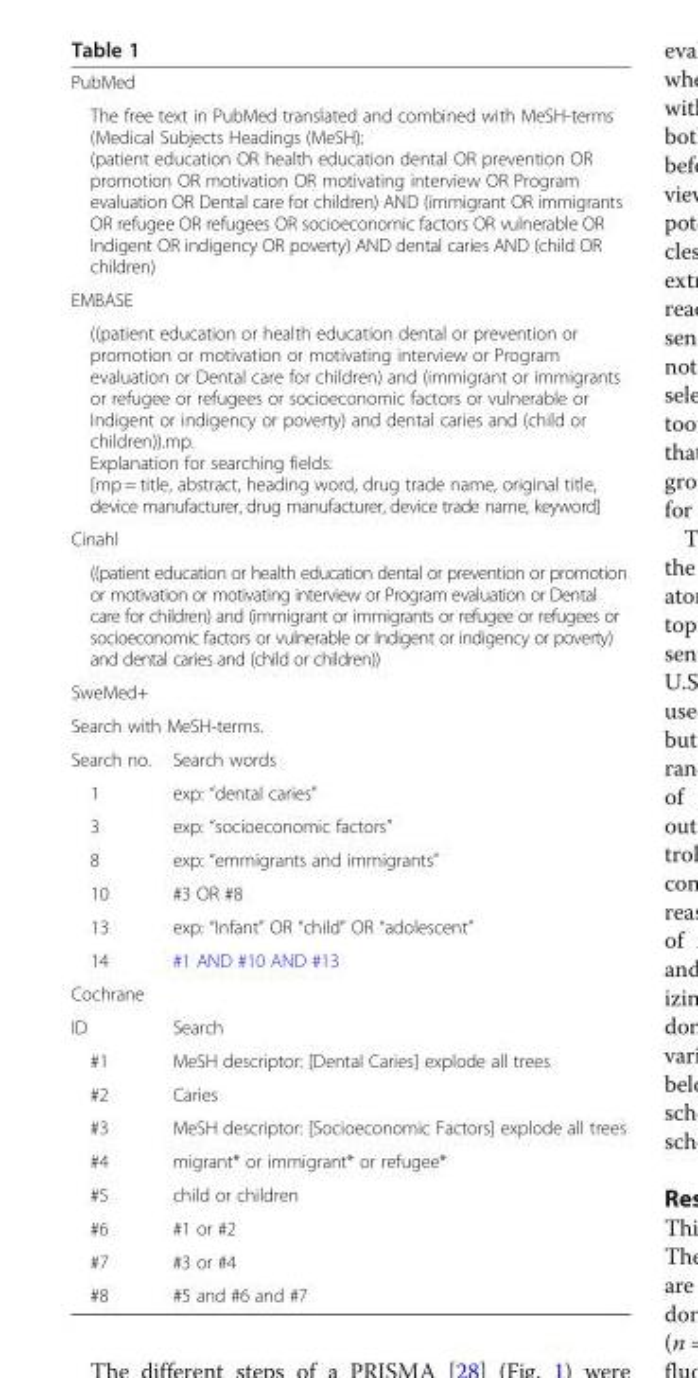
<table><tbody><tr><td colspan="2">PubMed</td></tr><tr><td colspan="2">The free text in PubMed translated and combined with MeSH-terms (Medical Subjects Headings (MeSH): (patient education OR health education dental OR prevention OR promotion OR motivation OR motivating interview OR Program evaluation OR Dental care for children) AND (immigrant OR immigrants OR refugee OR refugees OR socioeconomic factors OR vulnerable OR Indigent OR indigency OR poverty) AND dental caries AND (child OR children)</td></tr><tr><td colspan="2">EMBASE</td></tr><tr><td colspan="2">((patient education or health education dental or prevention or promotion or motivation or motivating interview or Program evaluation or Dental care for children) and (immigrant or immigrants or refugee or refugees or socioeconomic factors or vulnerable or Indigent or indigency or poverty) and dental caries and (child or children)).mp. Explanation for searching fields: [mp = title, abstract, heading word, drug trade name, original title, device manufacturer, drug manufacturer, device trade name, keyword]</td></tr><tr><td colspan="2">Cinahl</td></tr><tr><td colspan="2">((patient education or health education dental or prevention or promotion or motivation or motivating interview or Program evaluation or Dental care for children) and (immigrant or immigrants or refugee or refugees or socioeconomic factors or vulnerable or Indigent or indigency or poverty) and dental caries and (child or children))</td></tr><tr><td colspan="2">SweMed+</td></tr><tr><td colspan="2">Search with MeSH-terms.</td></tr><tr><td>Search no.</td><td>Search words</td></tr><tr><td>1</td><td>exp: “dental caries”</td></tr><tr><td>3</td><td>exp: “socioeconomic factors”</td></tr><tr><td>8</td><td>exp: “emmigrants and immigrants”</td></tr><tr><td>10</td><td>#3 OR #8</td></tr><tr><td>13</td><td>exp: “Infant” OR “child” OR “adolescent”</td></tr><tr><td>14</td><td>#1 AND #10 AND #13</td></tr><tr><td colspan="2">Cochrane</td></tr><tr><td>ID</td><td>Search</td></tr><tr><td>#1</td><td>MeSH descriptor: [Dental Caries] explode all trees</td></tr><tr><td>#2</td><td>Caries</td></tr><tr><td>#3</td><td>MeSH descriptor: [Socioeconomic Factors] explode all trees</td></tr><tr><td>#4</td><td>migrant* or immigrant* or refugee*</td></tr><tr><td>#5</td><td>child or children</td></tr><tr><td>#6</td><td>#1 or #2</td></tr><tr><td>#7</td><td>#3 or #4</td></tr><tr><td>#8</td><td>#5 and #6 and #7</td></tr></tbody></table>